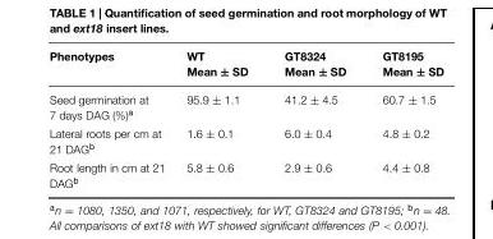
<table><thead><tr><td>Phenotypes</td><td>WT Mean ± SD</td><td>GT8324 Mean ± SD</td><td>GT8195 Mean ± SD</td></tr></thead><tbody><tr><td>Seed germination at 7 days DAG (%)<sup>a</sup></td><td>95.9 ± 1.1</td><td>41.2 ± 4.5</td><td>60.7 ± 1.5</td></tr><tr><td>Lateral roots per cm at 21 DAG<sup>b</sup></td><td>1.6 ± 0.1</td><td>6.0 ± 0.4</td><td>4.8 ± 0.2</td></tr><tr><td>Root length in cm at 21 DAG<sup>b</sup></td><td>5.8 ± 0.6</td><td>2.9 ± 0.6</td><td>4.4 ± 0.8</td></tr></tbody></table>